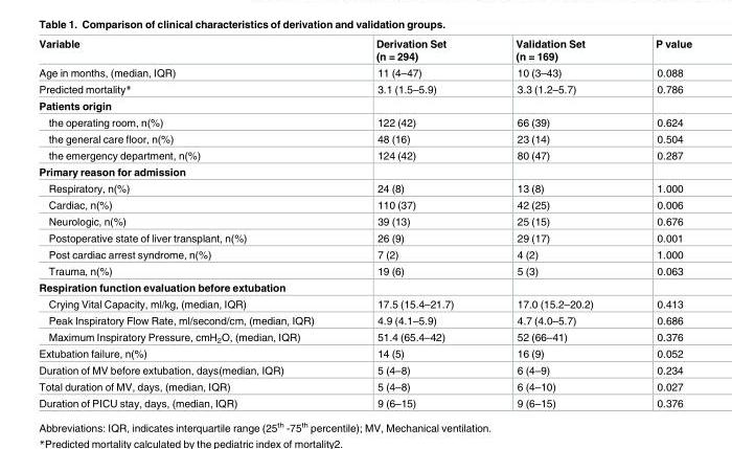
<table><thead><tr><td>Variable</td><td>Derivation Set (n = 294)</td><td>Validation Set (n = 169)</td><td>P value</td></tr></thead><tbody><tr><td>Age in months, (median, IQR)</td><td>11 (4–47)</td><td>10 (3–43)</td><td>0.088</td></tr><tr><td>Predicted mortality*</td><td>3.1 (1.5–5.9)</td><td>3.3 (1.2–5.7)</td><td>0.786</td></tr><tr><td colspan="4">Patients origin</td></tr><tr><td>the operating room, n(%)</td><td>122 (42)</td><td>66 (39)</td><td>0.624</td></tr><tr><td>the general care floor, n(%)</td><td>48 (16)</td><td>23 (14)</td><td>0.504</td></tr><tr><td>the emergency department, n(%)</td><td>124 (42)</td><td>80 (47)</td><td>0.287</td></tr><tr><td colspan="4">Primary reason for admission</td></tr><tr><td>Respiratory, n(%)</td><td>24 (8)</td><td>13 (8)</td><td>1.000</td></tr><tr><td>Cardiac, n(%)</td><td>110 (37)</td><td>42 (25)</td><td>0.006</td></tr><tr><td>Neurologic, n(%)</td><td>39 (13)</td><td>25 (15)</td><td>0.676</td></tr><tr><td>Postoperative state of liver transplant, n(%)</td><td>26 (9)</td><td>29 (17)</td><td>0.001</td></tr><tr><td>Post cardiac arrest syndrome, n(%)</td><td>7 (2)</td><td>4 (2)</td><td>1.000</td></tr><tr><td>Trauma, n(%)</td><td>19 (6)</td><td>5 (3)</td><td>0.063</td></tr><tr><td colspan="4">Respiration function evaluation before extubation</td></tr><tr><td>Crying Vital Capacity, ml/kg, (median, IQR)</td><td>17.5 (15.4–21.7)</td><td>17.0 (15.2–20.2)</td><td>0.413</td></tr><tr><td>Peak Inspiratory Flow Rate, ml/second/cm, (median, IQR)</td><td>4.9 (4.1–5.9)</td><td>4.7 (4.0–5.7)</td><td>0.686</td></tr><tr><td>Maximum Inspiratory Pressure, cmH<sub>2</sub>O, (median, IQR)</td><td>51.4 (65.4–42)</td><td>52 (66–41)</td><td>0.376</td></tr><tr><td>Extubation failure, n(%)</td><td>14 (5)</td><td>16 (9)</td><td>0.052</td></tr><tr><td>Duration of MV before extubation, days(median, IQR)</td><td>5 (4–8)</td><td>6 (4–9)</td><td>0.234</td></tr><tr><td>Total duration of MV, days, (median, IQR)</td><td>5 (4–8)</td><td>6 (4–10)</td><td>0.027</td></tr><tr><td>Duration of PICU stay, days, (median, IQR)</td><td>9 (6–15)</td><td>9 (6–15)</td><td>0.376</td></tr></tbody></table>